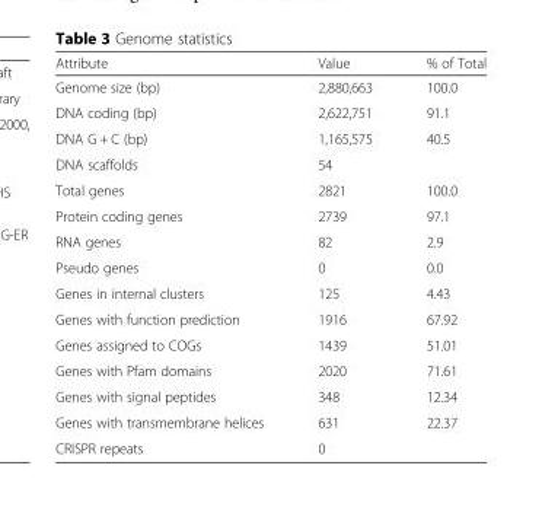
<table><thead><tr><td>Attribute</td><td>Value</td><td>% of Total</td></tr></thead><tbody><tr><td>Genome size (bp)</td><td>2,880,663</td><td>100.0</td></tr><tr><td>DNA coding (bp)</td><td>2,622,751</td><td>91.1</td></tr><tr><td>DNA G + C (bp)</td><td>1,165,575</td><td>40.5</td></tr><tr><td>DNA scaffolds</td><td>54</td><td></td></tr><tr><td>Total genes</td><td>2821</td><td>100.0</td></tr><tr><td>Protein coding genes</td><td>2739</td><td>97.1</td></tr><tr><td>RNA genes</td><td>82</td><td>2.9</td></tr><tr><td>Pseudo genes</td><td>0</td><td>0.0</td></tr><tr><td>Genes in internal clusters</td><td>125</td><td>4.43</td></tr><tr><td>Genes with function prediction</td><td>1916</td><td>67.92</td></tr><tr><td>Genes assigned to COGs</td><td>1439</td><td>51.01</td></tr><tr><td>Genes with Pfam domains</td><td>2020</td><td>71.61</td></tr><tr><td>Genes with signal peptides</td><td>348</td><td>12.34</td></tr><tr><td>Genes with transmembrane helices</td><td>631</td><td>22.37</td></tr><tr><td>CRISPR repeats</td><td>0</td><td></td></tr></tbody></table>